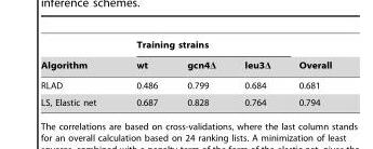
<table><thead><tr><td rowspan="2">Algorithm</td><td colspan="3">Training strains</td><td rowspan="2">Overall</td></tr><tr><td>wt</td><td>gcn4Δ</td><td>leu3Δ</td></tr></thead><tbody><tr><td>RLAD</td><td>0.486</td><td>0.799</td><td>0.684</td><td>0.681</td></tr><tr><td>LS, Elastic net</td><td>0.687</td><td>0.828</td><td>0.764</td><td>0.794</td></tr></tbody></table>